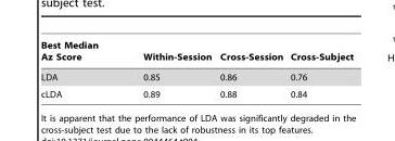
<table><thead><tr><td>Best Median Az Score</td><td>Within-Session</td><td>Cross-Session</td><td>Cross-Subject</td></tr></thead><tbody><tr><td>LDA</td><td>0.85</td><td>0.86</td><td>0.76</td></tr><tr><td>cLDA</td><td>0.89</td><td>0.88</td><td>0.84</td></tr></tbody></table>